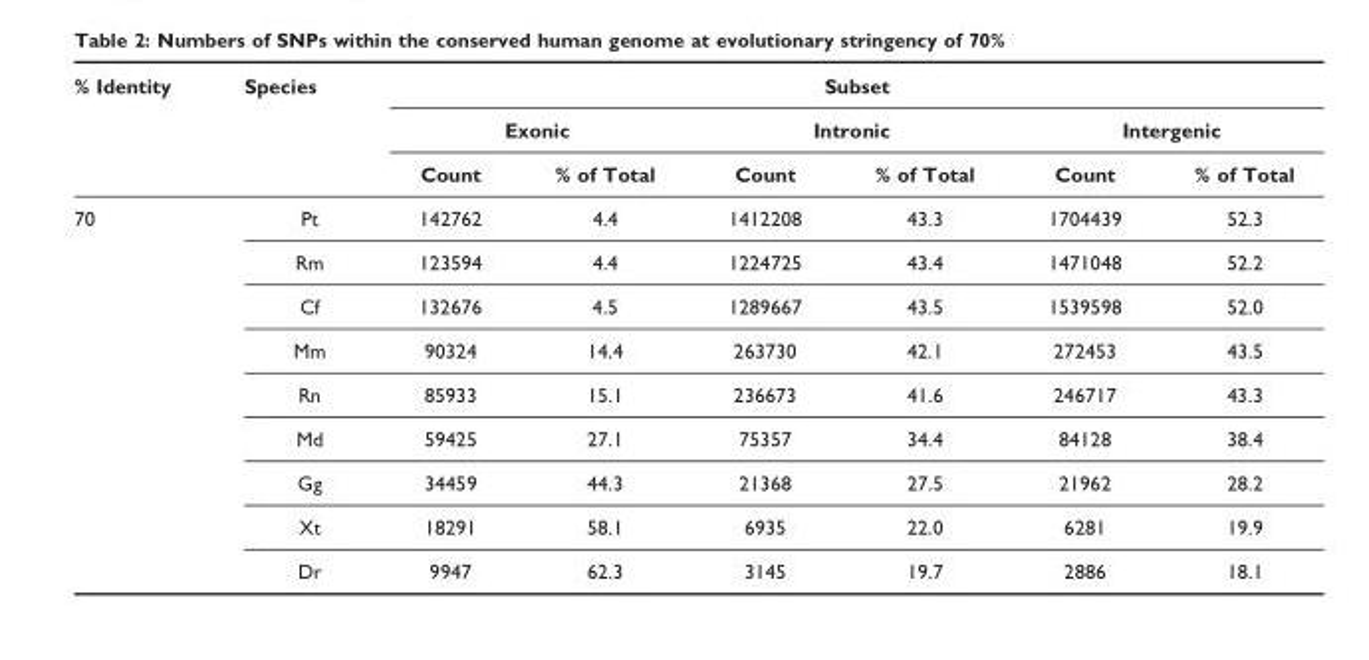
<table><thead><tr><td rowspan="3">% Identity</td><td rowspan="3">Species</td><td colspan="6">Subset</td></tr><tr><td colspan="2">Exonic</td><td colspan="2">Intronic</td><td colspan="2">Intergenic</td></tr><tr><td>Count</td><td>% of Total</td><td>Count</td><td>% of Total</td><td>Count</td><td>% of Total</td></tr></thead><tbody><tr><td rowspan="9">70</td><td>Pt</td><td>142762</td><td>4.4</td><td>1412208</td><td>43.3</td><td>1704439</td><td>52.3</td></tr><tr><td>Rm</td><td>123594</td><td>4.4</td><td>1224725</td><td>43.4</td><td>1471048</td><td>52.2</td></tr><tr><td>Cf</td><td>132676</td><td>4.5</td><td>1289667</td><td>43.5</td><td>1539598</td><td>52.0</td></tr><tr><td>Mm</td><td>90324</td><td>14.4</td><td>263730</td><td>42.1</td><td>272453</td><td>43.5</td></tr><tr><td>Rn</td><td>85933</td><td>15.1</td><td>236673</td><td>41.6</td><td>246717</td><td>43.3</td></tr><tr><td>Md</td><td>59425</td><td>27.1</td><td>75357</td><td>34.4</td><td>84128</td><td>38.4</td></tr><tr><td>Gg</td><td>34459</td><td>44.3</td><td>21368</td><td>27.5</td><td>21962</td><td>28.2</td></tr><tr><td>Xt</td><td>18291</td><td>58.1</td><td>6935</td><td>22.0</td><td>6281</td><td>19.9</td></tr><tr><td>Dr</td><td>9947</td><td>62.3</td><td>3145</td><td>19.7</td><td>2886</td><td>18.1</td></tr></tbody></table>